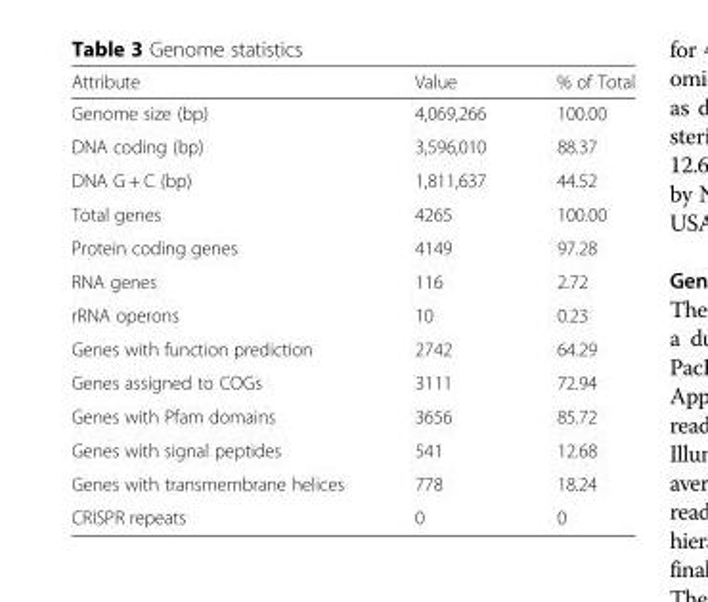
<table><thead><tr><td>Attribute</td><td>Value</td><td>% of Total</td></tr></thead><tbody><tr><td>Genome size (bp)</td><td>4,069,266</td><td>100.00</td></tr><tr><td>DNA coding (bp)</td><td>3,596,010</td><td>88.37</td></tr><tr><td>DNA G + C (bp)</td><td>1,811,637</td><td>44.52</td></tr><tr><td>Total genes</td><td>4265</td><td>100.00</td></tr><tr><td>Protein coding genes</td><td>4149</td><td>97.28</td></tr><tr><td>RNA genes</td><td>116</td><td>2.72</td></tr><tr><td>rRNA operons</td><td>10</td><td>0.23</td></tr><tr><td>Genes with function prediction</td><td>2742</td><td>64.29</td></tr><tr><td>Genes assigned to COGs</td><td>3111</td><td>72.94</td></tr><tr><td>Genes with Pfam domains</td><td>3656</td><td>85.72</td></tr><tr><td>Genes with signal peptides</td><td>541</td><td>12.68</td></tr><tr><td>Genes with transmembrane helices</td><td>778</td><td>18.24</td></tr><tr><td>CRISPR repeats</td><td>0</td><td>0</td></tr></tbody></table>